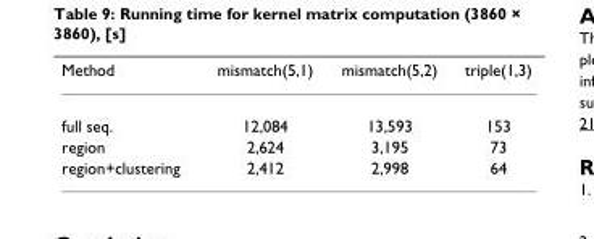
<table><thead><tr><td>Method</td><td>mismatch(5,1)</td><td>mismatch(5,2)</td><td>triple(1,3)</td></tr></thead><tbody><tr><td>full seq.</td><td>12,084</td><td>13,593</td><td>153</td></tr><tr><td>region</td><td>2,624</td><td>3,195</td><td>73</td></tr><tr><td>region+clustering</td><td>2,412</td><td>2,998</td><td>64</td></tr></tbody></table>